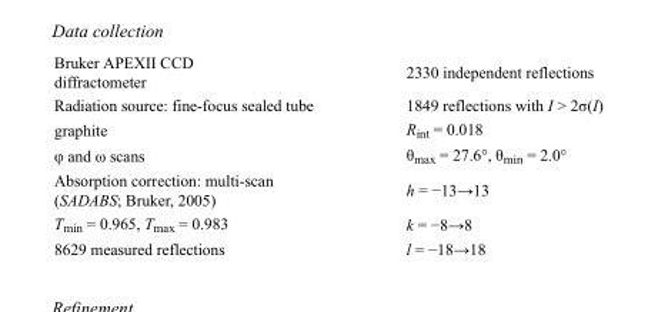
<table><tbody><tr><td>Bruker APEXII CCD diffractometer</td><td>2330 independent reflections</td></tr><tr><td>Radiation source: fine-focus sealed tube</td><td>1849 reflections with I &gt; 2σ(I)</td></tr><tr><td>graphite</td><td>R<sub>int</sub> = 0.018</td></tr><tr><td>φ and ω scans</td><td>θ<sub>max</sub> = 27.6°, θ<sub>min</sub> = 2.0°</td></tr><tr><td>Absorption correction: multi-scan (SADABS; Bruker, 2005)</td><td>h = −13→13</td></tr><tr><td>T<sub>min</sub> = 0.965, T<sub>max</sub> = 0.983</td><td>k = −8→8</td></tr><tr><td>8629 measured reflections</td><td>l = −18→18</td></tr></tbody></table>